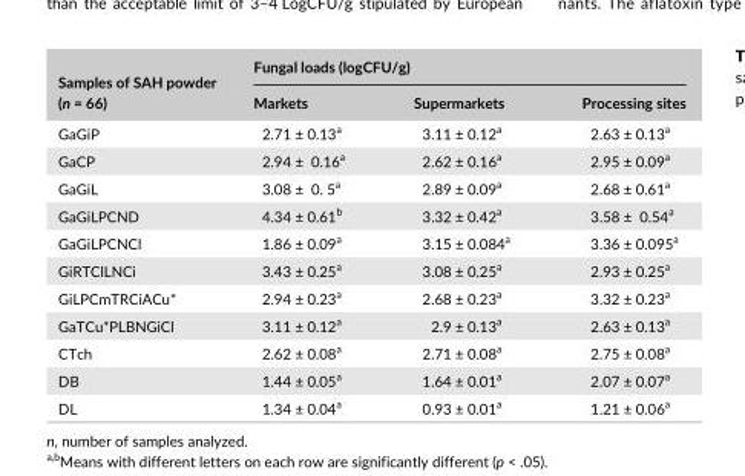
<table><thead><tr><td rowspan="2">Samples of SAH powder (n = 66)</td><td colspan="3">Fungal loads (logCFU/g)</td></tr><tr><td>Markets</td><td>Supermarkets</td><td>Processing sites</td></tr></thead><tbody><tr><td>GaGiP</td><td>2.71 ± 0.13<sup>a</sup></td><td>3.11 ± 0.12<sup>a</sup></td><td>2.63 ± 0.13<sup>a</sup></td></tr><tr><td>GaCP</td><td>2.94 ± 0.16<sup>a</sup></td><td>2.62 ± 0.16<sup>a</sup></td><td>2.95 ± 0.09<sup>a</sup></td></tr><tr><td>GaGiL</td><td>3.08 ± 0. 5<sup>a</sup></td><td>2.89 ± 0.09<sup>a</sup></td><td>2.68 ± 0.61<sup>a</sup></td></tr><tr><td>GaGiLPCND</td><td>4.34 ± 0.61<sup>b</sup></td><td>3.32 ± 0.42<sup>a</sup></td><td>3.58 ± 0.54<sup>a</sup></td></tr><tr><td>GaGiLPCNCl</td><td>1.86 ± 0.09<sup>a</sup></td><td>3.15 ± 0.084<sup>a</sup></td><td>3.36 ± 0.095<sup>a</sup></td></tr><tr><td>GiRTClLNCi</td><td>3.43 ± 0.25<sup>a</sup></td><td>3.08 ± 0.25<sup>a</sup></td><td>2.93 ± 0.25<sup>a</sup></td></tr><tr><td>GiLPCmTRCiACu*</td><td>2.94 ± 0.23<sup>a</sup></td><td>2.68 ± 0.23<sup>a</sup></td><td>3.32 ± 0.23<sup>a</sup></td></tr><tr><td>GaTCu*PLBNGiCl</td><td>3.11 ± 0.12<sup>a</sup></td><td>2.9 ± 0.13<sup>a</sup></td><td>2.63 ± 0.13<sup>a</sup></td></tr><tr><td>CTch</td><td>2.62 ± 0.08<sup>a</sup></td><td>2.71 ± 0.08<sup>a</sup></td><td>2.75 ± 0.08<sup>a</sup></td></tr><tr><td>DB</td><td>1.44 ± 0.05<sup>a</sup></td><td>1.64 ± 0.01<sup>a</sup></td><td>2.07 ± 0.07<sup>a</sup></td></tr><tr><td>DL</td><td>1.34 ± 0.04<sup>a</sup></td><td>0.93 ± 0.01<sup>a</sup></td><td>1.21 ± 0.06<sup>a</sup></td></tr></tbody></table>